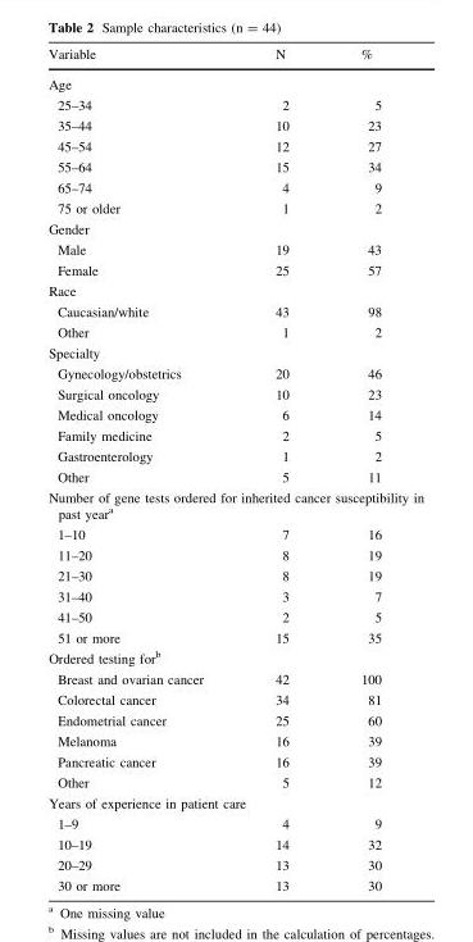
<table><thead><tr><td>Variable</td><td>N</td><td>%</td></tr></thead><tbody><tr><td colspan="3">Age</td></tr><tr><td>25–34</td><td>2</td><td>5</td></tr><tr><td>35–44</td><td>10</td><td>23</td></tr><tr><td>45–54</td><td>12</td><td>27</td></tr><tr><td>55–64</td><td>15</td><td>34</td></tr><tr><td>65–74</td><td>4</td><td>9</td></tr><tr><td>75 or older</td><td>1</td><td>2</td></tr><tr><td colspan="3">Gender</td></tr><tr><td>Male</td><td>19</td><td>43</td></tr><tr><td>Female</td><td>25</td><td>57</td></tr><tr><td colspan="3">Race</td></tr><tr><td>Caucasian/white</td><td>43</td><td>98</td></tr><tr><td>Other</td><td>1</td><td>2</td></tr><tr><td colspan="3">Specialty</td></tr><tr><td>Gynecology/obstetrics</td><td>20</td><td>46</td></tr><tr><td>Surgical oncology</td><td>10</td><td>23</td></tr><tr><td>Medical oncology</td><td>6</td><td>14</td></tr><tr><td>Family medicine</td><td>2</td><td>5</td></tr><tr><td>Gastroenterology</td><td>1</td><td>2</td></tr><tr><td>Other</td><td>5</td><td>11</td></tr><tr><td colspan="3">Number of gene tests ordered for inherited cancer susceptibility in past year<sup>a</sup></td></tr><tr><td>1–10</td><td>7</td><td>16</td></tr><tr><td>11–20</td><td>8</td><td>19</td></tr><tr><td>21–30</td><td>8</td><td>19</td></tr><tr><td>31–40</td><td>3</td><td>7</td></tr><tr><td>41–50</td><td>2</td><td>5</td></tr><tr><td>51 or more</td><td>15</td><td>35</td></tr><tr><td colspan="3">Ordered testing for<sup>b</sup></td></tr><tr><td>Breast and ovarian cancer</td><td>42</td><td>100</td></tr><tr><td>Colorectal cancer</td><td>34</td><td>81</td></tr><tr><td>Endometrial cancer</td><td>25</td><td>60</td></tr><tr><td>Melanoma</td><td>16</td><td>39</td></tr><tr><td>Pancreatic cancer</td><td>16</td><td>39</td></tr><tr><td>Other</td><td>5</td><td>12</td></tr><tr><td colspan="3">Years of experience in patient care</td></tr><tr><td>1–9</td><td>4</td><td>9</td></tr><tr><td>10–19</td><td>14</td><td>32</td></tr><tr><td>20–29</td><td>13</td><td>30</td></tr><tr><td>30 or more</td><td>13</td><td>30</td></tr></tbody></table>